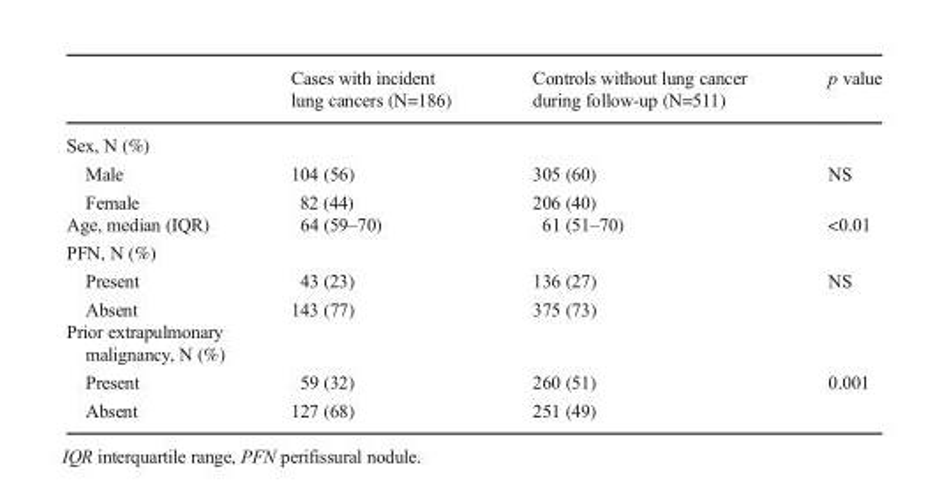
<table><thead><tr><td></td><td>Cases with incident lung cancers (N=186)</td><td>Controls without lung cancer during follow-up (N=511)</td><td>p value</td></tr></thead><tbody><tr><td colspan="4">Sex, N (%)</td></tr><tr><td>Male Female</td><td>104 (56) 82 (44)</td><td>305 (60) 206 (40)</td><td>NS</td></tr><tr><td>Age, median (IQR)</td><td>64 (59–70)</td><td>61 (51–70)</td><td>&lt;0.01</td></tr><tr><td colspan="4">PFN, N (%)</td></tr><tr><td>Present Absent</td><td>43 (23) 143 (77)</td><td>136 (27) 375 (73)</td><td>NS</td></tr><tr><td colspan="4">Prior extrapulmonary malignancy, N (%)</td></tr><tr><td>Present Absent</td><td>59 (32) 127 (68)</td><td>260 (51) 251 (49)</td><td>0.001</td></tr></tbody></table>